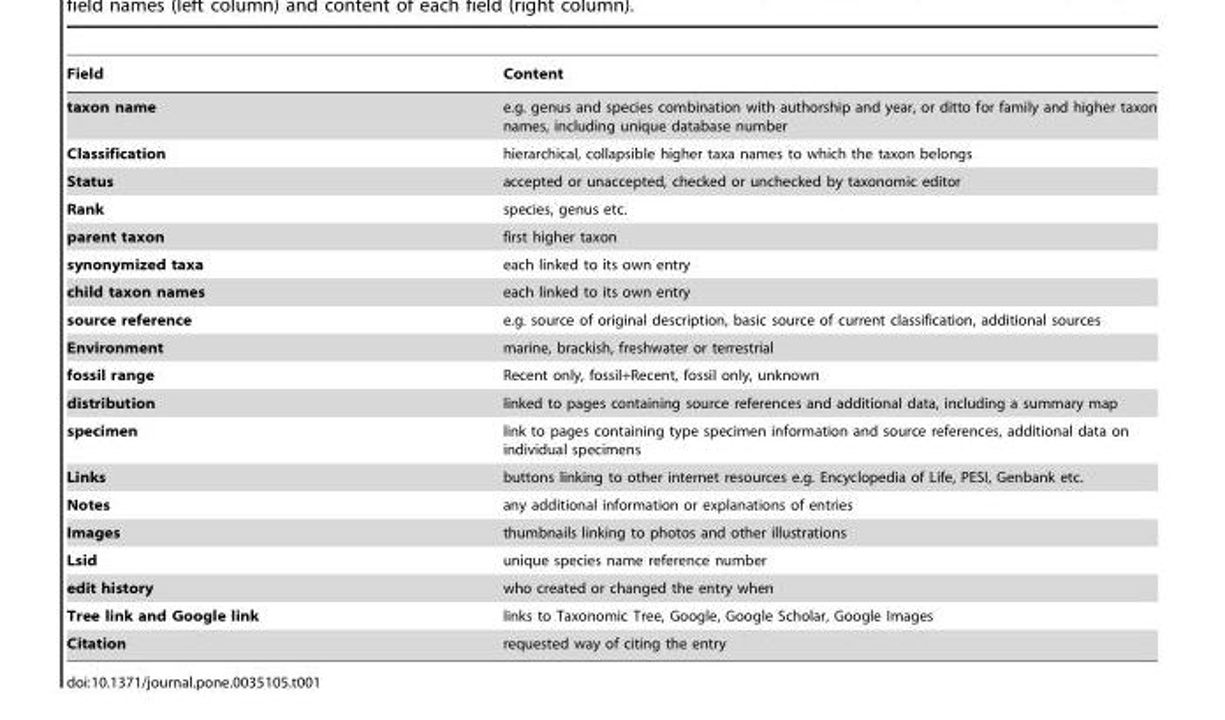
<table><thead><tr><td>Field</td><td>Content</td></tr></thead><tbody><tr><td>taxon name</td><td>e.g. genus and species combination with authorship and year, or ditto for family and higher taxon names, including unique database number</td></tr><tr><td>Classification</td><td>hierarchical, collapsible higher taxa names to which the taxon belongs</td></tr><tr><td>Status</td><td>accepted or unaccepted, checked or unchecked by taxonomic editor</td></tr><tr><td>Rank</td><td>species, genus etc.</td></tr><tr><td>parent taxon</td><td>first higher taxon</td></tr><tr><td>synonymized taxa</td><td>each linked to its own entry</td></tr><tr><td>child taxon names</td><td>each linked to its own entry</td></tr><tr><td>source reference</td><td>e.g. source of original description, basic source of current classification, additional sources</td></tr><tr><td>Environment</td><td>marine, brackish, freshwater or terrestrial</td></tr><tr><td>fossil range</td><td>Recent only, fossil+Recent, fossil only, unknown</td></tr><tr><td>distribution</td><td>linked to pages containing source references and additional data, including a summary map</td></tr><tr><td>specimen</td><td>link to pages containing type specimen information and source references, additional data on individual specimens</td></tr><tr><td>Links</td><td>buttons linking to other internet resources e.g. Encyclopedia of Life, PESI, Genbank etc.</td></tr><tr><td>Notes</td><td>any additional information or explanations of entries</td></tr><tr><td>Images</td><td>thumbnails linking to photos and other illustrations</td></tr><tr><td>Lsid</td><td>unique species name reference number</td></tr><tr><td>edit history</td><td>who created or changed the entry when</td></tr><tr><td>Tree link and Google link</td><td>links to Taxonomic Tree, Google, Google Scholar, Google Images</td></tr><tr><td>Citation</td><td>requested way of citing the entry</td></tr></tbody></table>